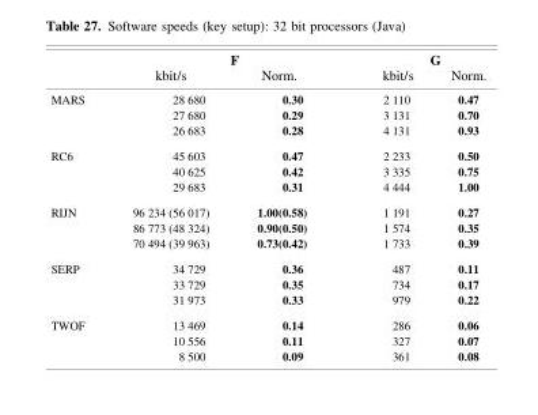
<table><thead><tr><td rowspan="2"></td><td colspan="2">F</td><td colspan="2">G</td></tr><tr><td>kbit/s</td><td>Norm.</td><td>kbit/s</td><td>Norm.</td></tr></thead><tbody><tr><td rowspan="3">MARS</td><td>28 680</td><td>0.30</td><td>2 110</td><td>0.47</td></tr><tr><td>27 680</td><td>0.29</td><td>3 131</td><td>0.70</td></tr><tr><td>26 683</td><td>0.28</td><td>4 131</td><td>0.93</td></tr><tr><td rowspan="3">RC6</td><td>45 603</td><td>0.47</td><td>2 233</td><td>0.50</td></tr><tr><td>40 625</td><td>0.42</td><td>3 335</td><td>0.75</td></tr><tr><td>29 683</td><td>0.31</td><td>4 444</td><td>1.00</td></tr><tr><td rowspan="3">RIJN</td><td>96 234 (56 017)</td><td>1.00(0.58)</td><td>1 191</td><td>0.27</td></tr><tr><td>86 773 (48 324)</td><td>0.90(0.50)</td><td>1 574</td><td>0.35</td></tr><tr><td>70 494 (39 963)</td><td>0.73(0.42)</td><td>1 733</td><td>0.39</td></tr><tr><td rowspan="3">SERP</td><td>34 729</td><td>0.36</td><td>487</td><td>0.11</td></tr><tr><td>33 729</td><td>0.35</td><td>734</td><td>0.17</td></tr><tr><td>31 973</td><td>0.33</td><td>979</td><td>0.22</td></tr><tr><td rowspan="3">TWOF</td><td>13 469</td><td>0.14</td><td>286</td><td>0.06</td></tr><tr><td>10 556</td><td>0.11</td><td>327</td><td>0.07</td></tr><tr><td>8 500</td><td>0.09</td><td>361</td><td>0.08</td></tr></tbody></table>